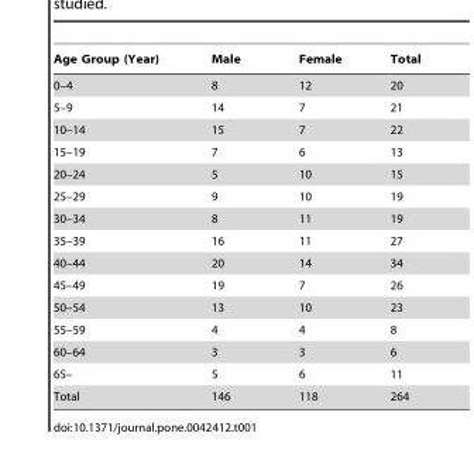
<table><thead><tr><td>Age Group (Year)</td><td>Male</td><td>Female</td><td>Total</td></tr></thead><tbody><tr><td>0–4</td><td>8</td><td>12</td><td>20</td></tr><tr><td>5–9</td><td>14</td><td>7</td><td>21</td></tr><tr><td>10–14</td><td>15</td><td>7</td><td>22</td></tr><tr><td>15–19</td><td>7</td><td>6</td><td>13</td></tr><tr><td>20–24</td><td>5</td><td>10</td><td>15</td></tr><tr><td>25–29</td><td>9</td><td>10</td><td>19</td></tr><tr><td>30–34</td><td>8</td><td>11</td><td>19</td></tr><tr><td>35–39</td><td>16</td><td>11</td><td>27</td></tr><tr><td>40–44</td><td>20</td><td>14</td><td>34</td></tr><tr><td>45–49</td><td>19</td><td>7</td><td>26</td></tr><tr><td>50–54</td><td>13</td><td>10</td><td>23</td></tr><tr><td>55–59</td><td>4</td><td>4</td><td>8</td></tr><tr><td>60–64</td><td>3</td><td>3</td><td>6</td></tr><tr><td>65–</td><td>5</td><td>6</td><td>11</td></tr><tr><td>Total</td><td>146</td><td>118</td><td>264</td></tr></tbody></table>